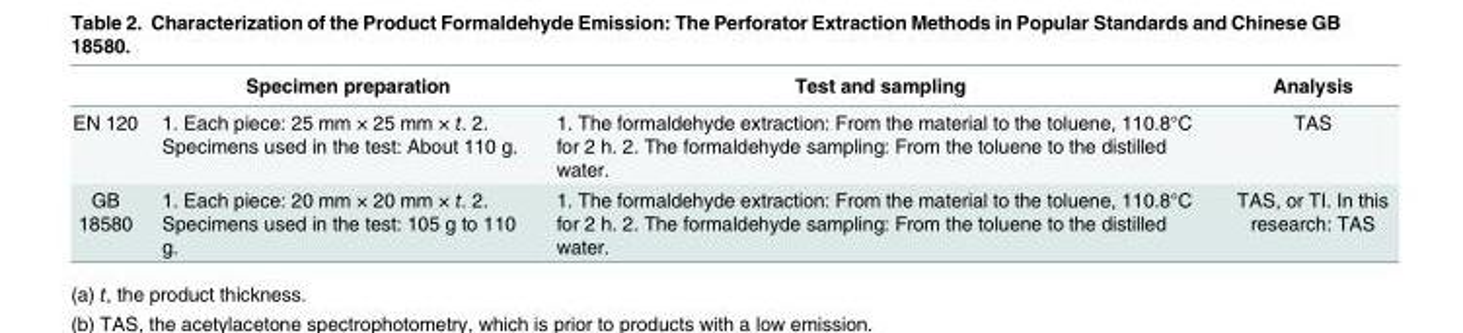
<table><thead><tr><td></td><td>Specimen preparation</td><td>Test and sampling</td><td>Analysis</td></tr></thead><tbody><tr><td>EN 120</td><td>1. Each piece: 25 mm × 25 mm × t. 2. Specimens used in the test: About 110 g.</td><td>1. The formaldehyde extraction: From the material to the toluene, 110.8°C for 2 h. 2. The formaldehyde sampling: From the toluene to the distilled water.</td><td>TAS</td></tr><tr><td>GB 18580</td><td>1. Each piece: 20 mm × 20 mm × t. 2. Specimens used in the test: 105 g to 110 g.</td><td>1. The formaldehyde extraction: From the material to the toluene, 110.8°C for 2 h. 2. The formaldehyde sampling: From the toluene to the distilled water.</td><td>TAS, or TI. In this research: TAS</td></tr></tbody></table>